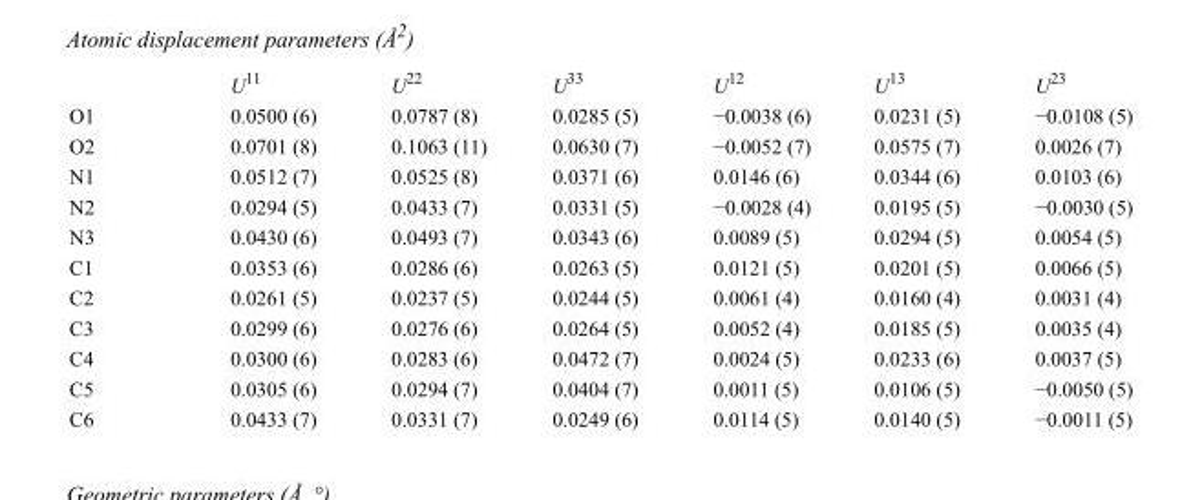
<table><thead><tr><td></td><td>U<sup>11</sup></td><td>U<sup>22</sup></td><td>U<sup>33</sup></td><td>U<sup>12</sup></td><td>U<sup>13</sup></td><td>U<sup>23</sup></td></tr></thead><tbody><tr><td>O1</td><td>0.0500 (6)</td><td>0.0787 (8)</td><td>0.0285 (5)</td><td>−0.0038 (6)</td><td>0.0231 (5)</td><td>−0.0108 (5)</td></tr><tr><td>O2</td><td>0.0701 (8)</td><td>0.1063 (11)</td><td>0.0630 (7)</td><td>−0.0052 (7)</td><td>0.0575 (7)</td><td>0.0026 (7)</td></tr><tr><td>N1</td><td>0.0512 (7)</td><td>0.0525 (8)</td><td>0.0371 (6)</td><td>0.0146 (6)</td><td>0.0344 (6)</td><td>0.0103 (6)</td></tr><tr><td>N2</td><td>0.0294 (5)</td><td>0.0433 (7)</td><td>0.0331 (5)</td><td>−0.0028 (4)</td><td>0.0195 (5)</td><td>−0.0030 (5)</td></tr><tr><td>N3</td><td>0.0430 (6)</td><td>0.0493 (7)</td><td>0.0343 (6)</td><td>0.0089 (5)</td><td>0.0294 (5)</td><td>0.0054 (5)</td></tr><tr><td>C1</td><td>0.0353 (6)</td><td>0.0286 (6)</td><td>0.0263 (5)</td><td>0.0121 (5)</td><td>0.0201 (5)</td><td>0.0066 (5)</td></tr><tr><td>C2</td><td>0.0261 (5)</td><td>0.0237 (5)</td><td>0.0244 (5)</td><td>0.0061 (4)</td><td>0.0160 (4)</td><td>0.0031 (4)</td></tr><tr><td>C3</td><td>0.0299 (6)</td><td>0.0276 (6)</td><td>0.0264 (5)</td><td>0.0052 (4)</td><td>0.0185 (5)</td><td>0.0035 (4)</td></tr><tr><td>C4</td><td>0.0300 (6)</td><td>0.0283 (6)</td><td>0.0472 (7)</td><td>0.0024 (5)</td><td>0.0233 (6)</td><td>0.0037 (5)</td></tr><tr><td>C5</td><td>0.0305 (6)</td><td>0.0294 (7)</td><td>0.0404 (7)</td><td>0.0011 (5)</td><td>0.0106 (5)</td><td>−0.0050 (5)</td></tr><tr><td>C6</td><td>0.0433 (7)</td><td>0.0331 (7)</td><td>0.0249 (6)</td><td>0.0114 (5)</td><td>0.0140 (5)</td><td>−0.0011 (5)</td></tr></tbody></table>